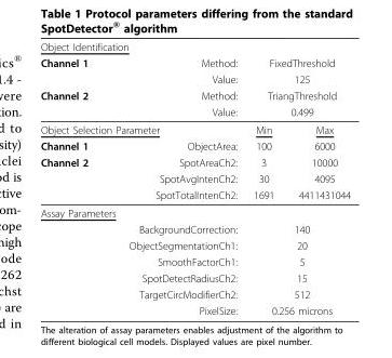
<table><thead><tr><td colspan="2">Object Identification</td><td></td><td></td></tr><tr><td rowspan="4">Channel 1 Channel 2</td><td rowspan="4">Method: Value: Method: Value:</td><td rowspan="4" colspan="2">FixedThreshold 125 TriangThreshold 0.499</td></tr><tr></tr><tr></tr><tr></tr></thead><tbody><tr><td colspan="2">Object Selection Parameter</td><td>Min</td><td>Max</td></tr><tr><td>Channel 1</td><td>ObjectArea:</td><td>100</td><td>6000</td></tr><tr><td rowspan="3">Channel 2</td><td>SpotAreaCh2:</td><td>3</td><td>10000</td></tr><tr><td>SpotAvgIntenCh2:</td><td>30</td><td>4095</td></tr><tr><td>SpotTotalIntenCh2:</td><td>1691</td><td>4411431044</td></tr><tr><td colspan="4">Assay Parameters</td></tr><tr><td></td><td>BackgroundCorrection:</td><td colspan="2">140</td></tr><tr><td></td><td>ObjectSegmentationCh1:</td><td colspan="2">20</td></tr><tr><td></td><td>SmoothFactorCh1:</td><td colspan="2">5</td></tr><tr><td></td><td>SpotDetectRadiusCh2:</td><td colspan="2">15</td></tr><tr><td></td><td>TargetCircModifierCh2:</td><td colspan="2">512</td></tr><tr><td></td><td>PixelSize:</td><td colspan="2">0.256 microns</td></tr></tbody></table>